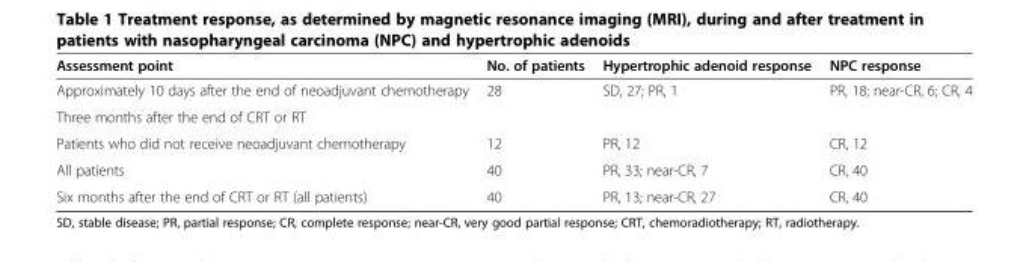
<table><thead><tr><td>Assessment point</td><td>No. of patients</td><td>Hypertrophic adenoid response</td><td>NPC response</td></tr></thead><tbody><tr><td>Approximately 10 days after the end of neoadjuvant chemotherapy</td><td>28</td><td>SD, 27; PR, 1</td><td>PR, 18; near-CR, 6; CR, 4</td></tr><tr><td colspan="4">Three months after the end of CRT or RT</td></tr><tr><td>Patients who did not receive neoadjuvant chemotherapy</td><td>12</td><td>PR, 12</td><td>CR, 12</td></tr><tr><td>All patients</td><td>40</td><td>PR, 33; near-CR, 7</td><td>CR, 40</td></tr><tr><td>Six months after the end of CRT or RT (all patients)</td><td>40</td><td>PR, 13; near-CR, 27</td><td>CR, 40</td></tr></tbody></table>